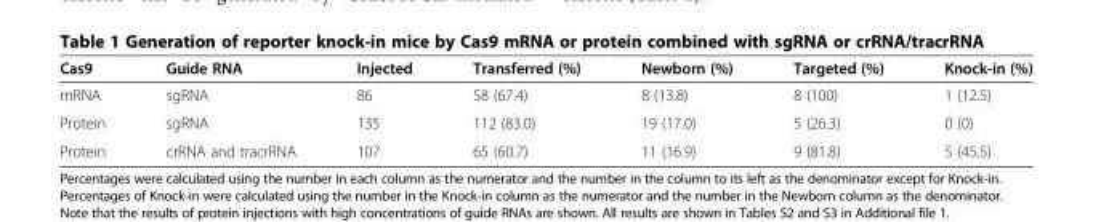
<table><thead><tr><td>Cas9</td><td>Guide RNA</td><td>Injected</td><td>Transferred (%)</td><td>Newborn (%)</td><td>Targeted (%)</td><td>Knock-in (%)</td></tr></thead><tbody><tr><td>mRNA</td><td>sgRNA</td><td>86</td><td>58 (67.4)</td><td>8 (13.8)</td><td>8 (100)</td><td>1 (12.5)</td></tr><tr><td>Protein</td><td>sgRNA</td><td>135</td><td>112 (83.0)</td><td>19 (17.0)</td><td>5 (26.3)</td><td>0 (0)</td></tr><tr><td>Protein</td><td>crRNA and tracrRNA</td><td>107</td><td>65 (60.7)</td><td>11 (16.9)</td><td>9 (81.8)</td><td>5 (45.5)</td></tr></tbody></table>